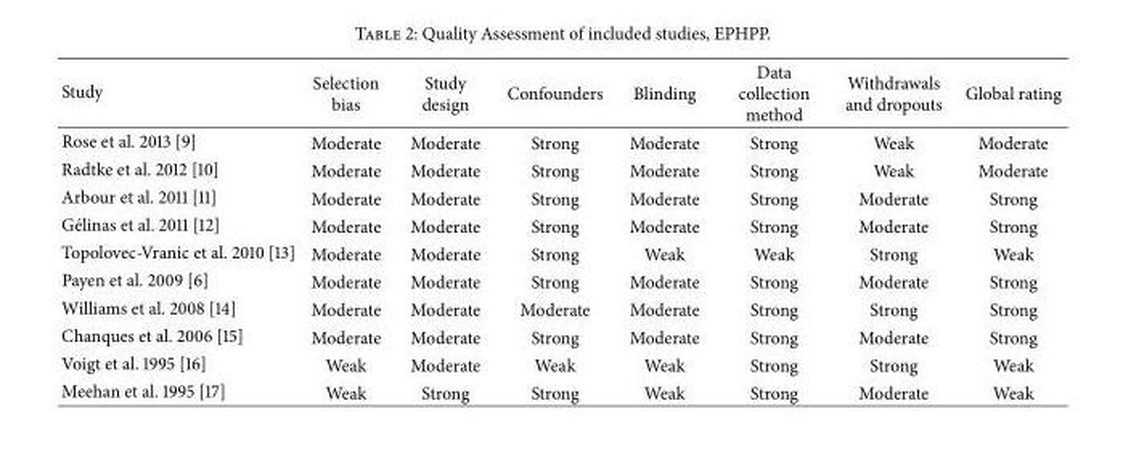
<table><thead><tr><td>Study</td><td>Selection bias</td><td>Study design</td><td>Confounders</td><td>Blinding</td><td>Data collection method</td><td>Withdrawals and dropouts</td><td>Global rating</td></tr></thead><tbody><tr><td>Rose et al. 2013 [9]</td><td>Moderate</td><td>Moderate</td><td>Strong</td><td>Moderate</td><td>Strong</td><td>Weak</td><td>Moderate</td></tr><tr><td>Radtke et al. 2012 [10]</td><td>Moderate</td><td>Moderate</td><td>Strong</td><td>Moderate</td><td>Strong</td><td>Weak</td><td>Moderate</td></tr><tr><td>Arbour et al. 2011 [11]</td><td>Moderate</td><td>Moderate</td><td>Strong</td><td>Moderate</td><td>Strong</td><td>Moderate</td><td>Strong</td></tr><tr><td>G´elinas et al. 2011 [12]</td><td>Moderate</td><td>Moderate</td><td>Strong</td><td>Moderate</td><td>Strong</td><td>Moderate</td><td>Strong</td></tr><tr><td>Topolovec-Vranic et al. 2010 [13]</td><td>Moderate</td><td>Moderate</td><td>Strong</td><td>Weak</td><td>Weak</td><td>Strong</td><td>Weak</td></tr><tr><td>Payen et al. 2009 [6]</td><td>Moderate</td><td>Moderate</td><td>Strong</td><td>Moderate</td><td>Strong</td><td>Moderate</td><td>Strong</td></tr><tr><td>Williams et al. 2008 [14]</td><td>Moderate</td><td>Moderate</td><td>Moderate</td><td>Moderate</td><td>Strong</td><td>Strong</td><td>Strong</td></tr><tr><td>Chanques et al. 2006 [15]</td><td>Moderate</td><td>Moderate</td><td>Strong</td><td>Moderate</td><td>Strong</td><td>Moderate</td><td>Strong</td></tr><tr><td>Voigt et al. 1995 [16]</td><td>Weak</td><td>Moderate</td><td>Weak</td><td>Weak</td><td>Strong</td><td>Strong</td><td>Weak</td></tr><tr><td>Meehan et al. 1995 [17]</td><td>Weak</td><td>Strong</td><td>Strong</td><td>Weak</td><td>Strong</td><td>Moderate</td><td>Weak</td></tr></tbody></table>